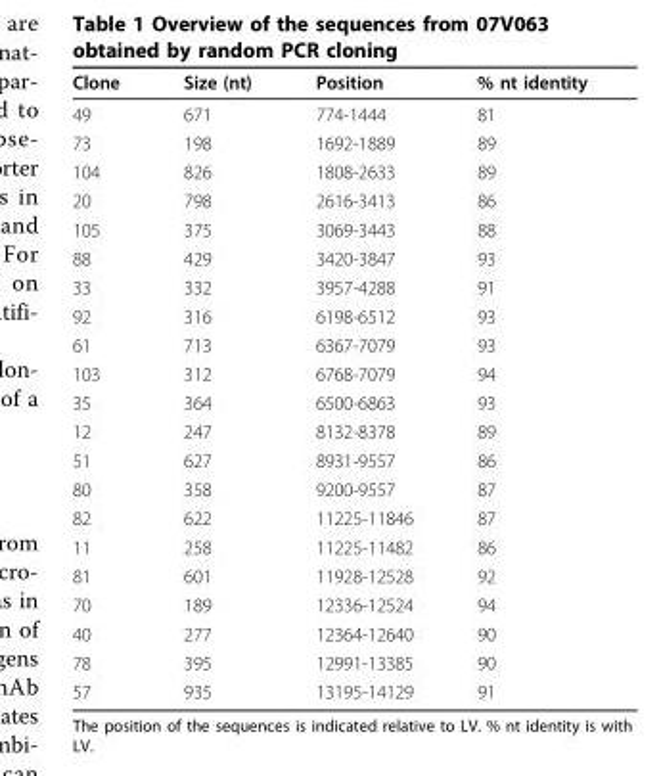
<table><thead><tr><td>Clone</td><td>Size (nt)</td><td>Position</td><td>% nt identity</td></tr></thead><tbody><tr><td>49</td><td>671</td><td>774-1444</td><td>81</td></tr><tr><td>73</td><td>198</td><td>1692-1889</td><td>89</td></tr><tr><td>104</td><td>826</td><td>1808-2633</td><td>89</td></tr><tr><td>20</td><td>798</td><td>2616-3413</td><td>86</td></tr><tr><td>105</td><td>375</td><td>3069-3443</td><td>88</td></tr><tr><td>88</td><td>429</td><td>3420-3847</td><td>93</td></tr><tr><td>33</td><td>332</td><td>3957-4288</td><td>91</td></tr><tr><td>92</td><td>316</td><td>6198-6512</td><td>93</td></tr><tr><td>61</td><td>713</td><td>6367-7079</td><td>93</td></tr><tr><td>103</td><td>312</td><td>6768-7079</td><td>94</td></tr><tr><td>35</td><td>364</td><td>6500-6863</td><td>93</td></tr><tr><td>12</td><td>247</td><td>8132-8378</td><td>89</td></tr><tr><td>51</td><td>627</td><td>8931-9557</td><td>86</td></tr><tr><td>80</td><td>358</td><td>9200-9557</td><td>87</td></tr><tr><td>82</td><td>622</td><td>11225-11846</td><td>87</td></tr><tr><td>11</td><td>258</td><td>11225-11482</td><td>86</td></tr><tr><td>81</td><td>601</td><td>11928-12528</td><td>92</td></tr><tr><td>70</td><td>189</td><td>12336-12524</td><td>94</td></tr><tr><td>40</td><td>277</td><td>12364-12640</td><td>90</td></tr><tr><td>78</td><td>395</td><td>12991-13385</td><td>90</td></tr><tr><td>57</td><td>935</td><td>13195-14129</td><td>91</td></tr></tbody></table>